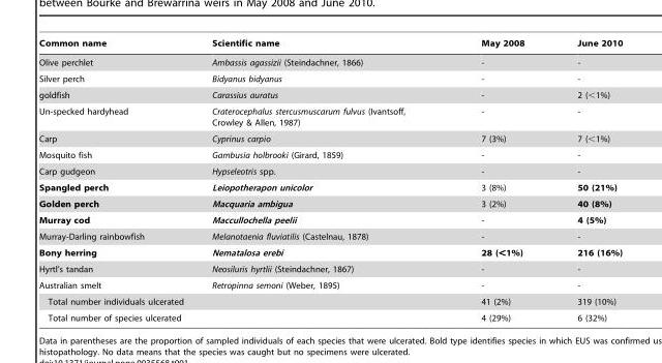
<table><thead><tr><td>Common name</td><td>Scientific name</td><td>May 2008</td><td>June 2010</td></tr></thead><tbody><tr><td>Olive perchlet</td><td>Ambassis agassizii (Steindachner, 1866)</td><td>-</td><td>-</td></tr><tr><td>Silver perch</td><td>Bidyanus bidyanus</td><td>-</td><td>-</td></tr><tr><td>goldfish</td><td>Carassius auratus</td><td>-</td><td>2 (&lt;1%)</td></tr><tr><td>Un-specked hardyhead</td><td>Craterocephalus stercusmuscarum fulvus (Ivantsoff, Crowley &amp; Allen, 1987)</td><td>-</td><td>-</td></tr><tr><td>Carp</td><td>Cyprinus carpio</td><td>7 (3%)</td><td>7 (&lt;1%)</td></tr><tr><td>Mosquito fish</td><td>Gambusia holbrooki (Girard, 1859)</td><td>-</td><td>-</td></tr><tr><td>Carp gudgeon</td><td>Hypseleotris spp.</td><td>-</td><td>-</td></tr><tr><td>Spangled perch</td><td>Leiopotherapon unicolor</td><td>3 (8%)</td><td>50 (21%)</td></tr><tr><td>Golden perch</td><td>Macquaria ambigua</td><td>3 (2%)</td><td>40 (8%)</td></tr><tr><td>Murray cod</td><td>Maccullochella peelii</td><td>-</td><td>4 (5%)</td></tr><tr><td>Murray-Darling rainbowfish</td><td>Melanotaenia fluviatilis (Castelnau, 1878)</td><td>-</td><td>-</td></tr><tr><td>Bony herring</td><td>Nematalosa erebi</td><td>28 (&lt;1%)</td><td>216 (16%)</td></tr><tr><td>Hyrtl’s tandan</td><td>Neosiluris hyrtlii (Steindachner, 1867)</td><td>-</td><td>-</td></tr><tr><td>Australian smelt</td><td>Retropinna semoni (Weber, 1895)</td><td>-</td><td>-</td></tr><tr><td colspan="2">Total number individuals ulcerated</td><td>41 (2%)</td><td>319 (10%)</td></tr><tr><td colspan="2">Total number of species ulcerated</td><td>4 (29%)</td><td>6 (32%)</td></tr></tbody></table>